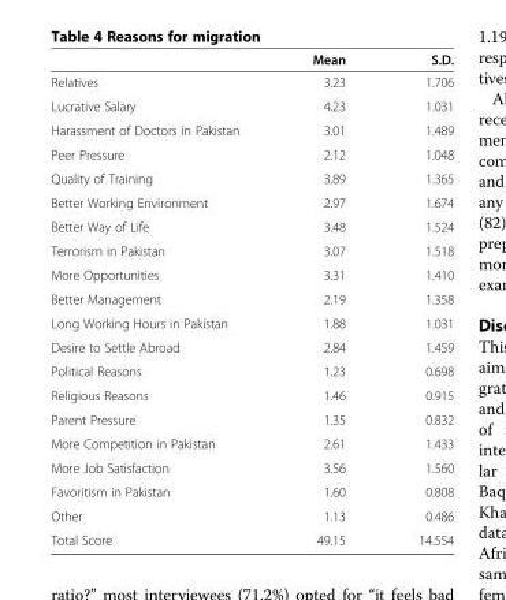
<table><thead><tr><td></td><td>Mean</td><td>S.D.</td></tr></thead><tbody><tr><td>Relatives</td><td>3.23</td><td>1.706</td></tr><tr><td>Lucrative Salary</td><td>4.23</td><td>1.031</td></tr><tr><td>Harassment of Doctors in Pakistan</td><td>3.01</td><td>1.489</td></tr><tr><td>Peer Pressure</td><td>2.12</td><td>1.048</td></tr><tr><td>Quality of Training</td><td>3.89</td><td>1.365</td></tr><tr><td>Better Working Environment</td><td>2.97</td><td>1.674</td></tr><tr><td>Better Way of Life</td><td>3.48</td><td>1.524</td></tr><tr><td>Terrorism in Pakistan</td><td>3.07</td><td>1.518</td></tr><tr><td>More Opportunities</td><td>3.31</td><td>1.410</td></tr><tr><td>Better Management</td><td>2.19</td><td>1.358</td></tr><tr><td>Long Working Hours in Pakistan</td><td>1.88</td><td>1.031</td></tr><tr><td>Desire to Settle Abroad</td><td>2.84</td><td>1.459</td></tr><tr><td>Political Reasons</td><td>1.23</td><td>0.698</td></tr><tr><td>Religious Reasons</td><td>1.46</td><td>0.915</td></tr><tr><td>Parent Pressure</td><td>1.35</td><td>0.832</td></tr><tr><td>More Competition in Pakistan</td><td>2.61</td><td>1.433</td></tr><tr><td>More Job Satisfaction</td><td>3.56</td><td>1.560</td></tr><tr><td>Favoritism in Pakistan</td><td>1.60</td><td>0.808</td></tr><tr><td>Other</td><td>1.13</td><td>0.486</td></tr><tr><td>Total Score</td><td>49.15</td><td>14.554</td></tr></tbody></table>